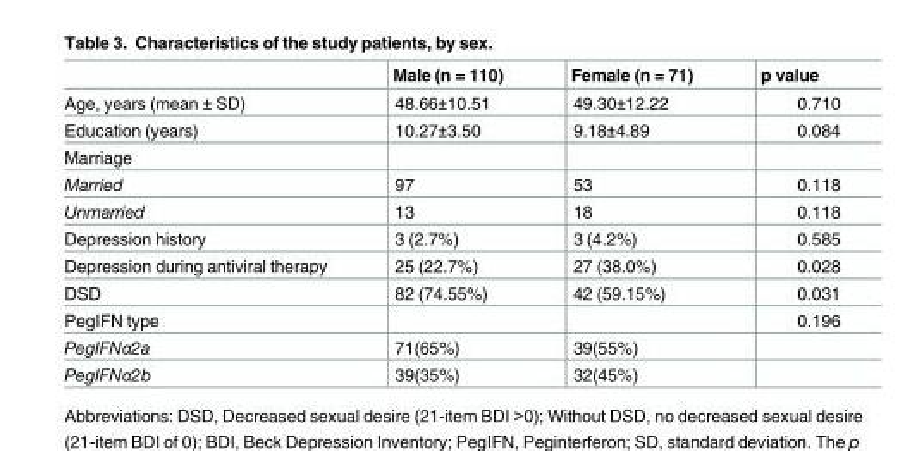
<table><thead><tr><td></td><td>Male (n = 110)</td><td>Female (n = 71)</td><td>p value</td></tr></thead><tbody><tr><td>Age, years (mean ± SD)</td><td>48.66±10.51</td><td>49.30±12.22</td><td>0.710</td></tr><tr><td>Education (years)</td><td>10.27±3.50</td><td>9.18±4.89</td><td>0.084</td></tr><tr><td colspan="4">Marriage</td></tr><tr><td>Married</td><td>97</td><td>53</td><td>0.118</td></tr><tr><td>Unmarried</td><td>13</td><td>18</td><td>0.118</td></tr><tr><td>Depression history</td><td>3 (2.7%)</td><td>3 (4.2%)</td><td>0.585</td></tr><tr><td>Depression during antiviral therapy</td><td>25 (22.7%)</td><td>27 (38.0%)</td><td>0.028</td></tr><tr><td>DSD</td><td>82 (74.55%)</td><td>42 (59.15%)</td><td>0.031</td></tr><tr><td>PegIFN type</td><td></td><td></td><td>0.196</td></tr><tr><td>PegIFNα2a</td><td>71(65%)</td><td>39(55%)</td><td></td></tr><tr><td>PegIFNα2b</td><td>39(35%)</td><td>32(45%)</td><td></td></tr></tbody></table>